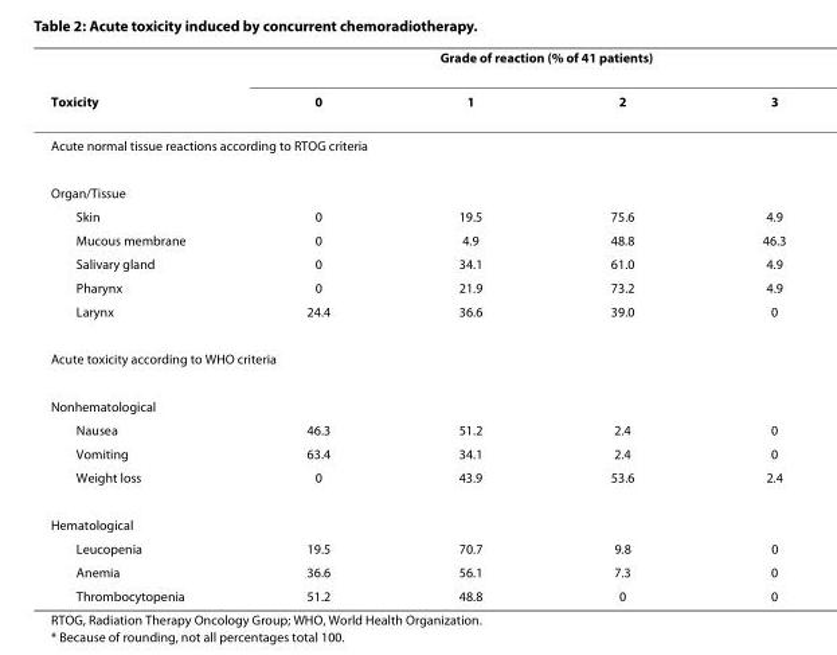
<table><thead><tr><td rowspan="2">Toxicity</td><td colspan="4">Grade of reaction (% of 41 patients)</td></tr><tr><td>0</td><td>1</td><td>2</td><td>3</td></tr></thead><tbody><tr><td colspan="5">Acute normal tissue reactions according to RTOG criteria</td></tr><tr><td colspan="5">Organ/Tissue</td></tr><tr><td>Skin</td><td>0</td><td>19.5</td><td>75.6</td><td>4.9</td></tr><tr><td>Mucous membrane</td><td>0</td><td>4.9</td><td>48.8</td><td>46.3</td></tr><tr><td>Salivary gland</td><td>0</td><td>34.1</td><td>61.0</td><td>4.9</td></tr><tr><td>Pharynx</td><td>0</td><td>21.9</td><td>73.2</td><td>4.9</td></tr><tr><td>Larynx</td><td>24.4</td><td>36.6</td><td>39.0</td><td>0</td></tr><tr><td colspan="5">Acute toxicity according to WHO criteria</td></tr><tr><td colspan="5">Nonhematological</td></tr><tr><td>Nausea</td><td>46.3</td><td>51.2</td><td>2.4</td><td>0</td></tr><tr><td>Vomiting</td><td>63.4</td><td>34.1</td><td>2.4</td><td>0</td></tr><tr><td>Weight loss</td><td>0</td><td>43.9</td><td>53.6</td><td>2.4</td></tr><tr><td colspan="5">Hematological</td></tr><tr><td>Leucopenia</td><td>19.5</td><td>70.7</td><td>9.8</td><td>0</td></tr><tr><td>Anemia</td><td>36.6</td><td>56.1</td><td>7.3</td><td>0</td></tr><tr><td>Thrombocytopenia</td><td>51.2</td><td>48.8</td><td>0</td><td>0</td></tr></tbody></table>